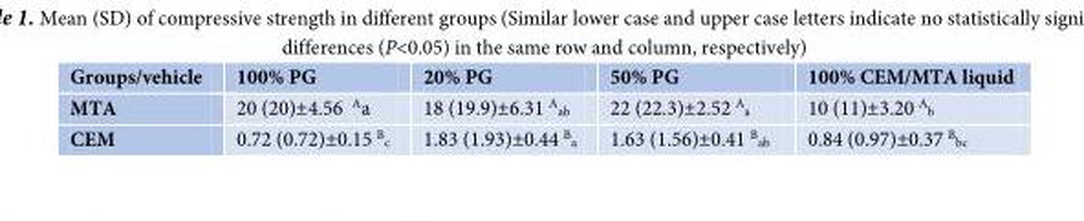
<table><thead><tr><td>Groups/vehicle</td><td>100% PG</td><td>20% PG</td><td>50% PG</td><td>100% CEM/MTA liquid</td></tr></thead><tbody><tr><td>MTA</td><td>20 (20)±4.56 <sup>A</sup>a</td><td>18 (19.9)±6.31 <sup>A</sup><sub>ab</sub></td><td>22 (22.3)±2.52 <sup>A</sup><sub>a</sub></td><td>10 (11)±3.20 <sup>A</sup><sub>b</sub></td></tr><tr><td>CEM</td><td>0.72 (0.72)±0.15 <sup>B</sup><sub>c</sub></td><td>1.83 (1.93)±0.44 <sup>B</sup><sub>a</sub></td><td>1.63 (1.56)±0.41 <sup>B</sup><sub>ab</sub></td><td>0.84 (0.97)±0.37 <sup>B</sup><sub>bc</sub></td></tr></tbody></table>